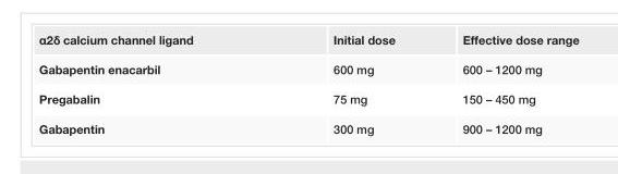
<table><tbody><tr><td>α2δ calcium channel ligand</td><td>Initial dose</td><td>Effective dose range</td></tr><tr><td>Gabapentin enacarbil</td><td>600 mg</td><td>600 – 1200 mg</td></tr><tr><td>Pregabalin</td><td>75 mg</td><td>150 – 450 mg</td></tr><tr><td>Gabapentin</td><td>300 mg</td><td>900 – 1200 mg</td></tr></tbody></table>